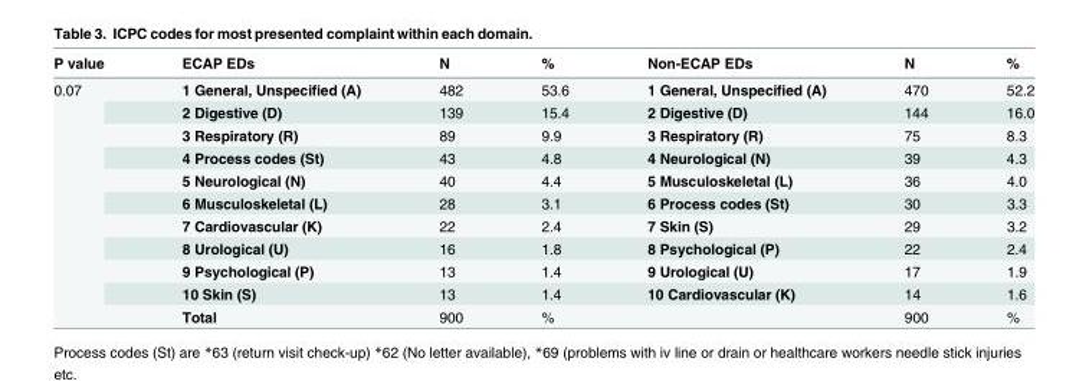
<table><thead><tr><td>P value</td><td>ECAP EDs</td><td>N</td><td>%</td><td>Non-ECAP EDs</td><td>N</td><td>%</td></tr></thead><tbody><tr><td rowspan="11">0.07</td><td>1 General, Unspecified (A)</td><td>482</td><td>53.6</td><td>1 General, Unspecified (A)</td><td>470</td><td>52.2</td></tr><tr><td>2 Digestive (D)</td><td>139</td><td>15.4</td><td>2 Digestive (D)</td><td>144</td><td>16.0</td></tr><tr><td>3 Respiratory (R)</td><td>89</td><td>9.9</td><td>3 Respiratory (R)</td><td>75</td><td>8.3</td></tr><tr><td>4 Process codes (St)</td><td>43</td><td>4.8</td><td>4 Neurological (N)</td><td>39</td><td>4.3</td></tr><tr><td>5 Neurological (N)</td><td>40</td><td>4.4</td><td>5 Musculoskeletal (L)</td><td>36</td><td>4.0</td></tr><tr><td>6 Musculoskeletal (L)</td><td>28</td><td>3.1</td><td>6 Process codes (St)</td><td>30</td><td>3.3</td></tr><tr><td>7 Cardiovascular (K)</td><td>22</td><td>2.4</td><td>7 Skin (S)</td><td>29</td><td>3.2</td></tr><tr><td>8 Urological (U)</td><td>16</td><td>1.8</td><td>8 Psychological (P)</td><td>22</td><td>2.4</td></tr><tr><td>9 Psychological (P)</td><td>13</td><td>1.4</td><td>9 Urological (U)</td><td>17</td><td>1.9</td></tr><tr><td>10 Skin (S)</td><td>13</td><td>1.4</td><td>10 Cardiovascular (K)</td><td>14</td><td>1.6</td></tr><tr><td>Total</td><td>900</td><td>%</td><td></td><td>900</td><td>%</td></tr></tbody></table>